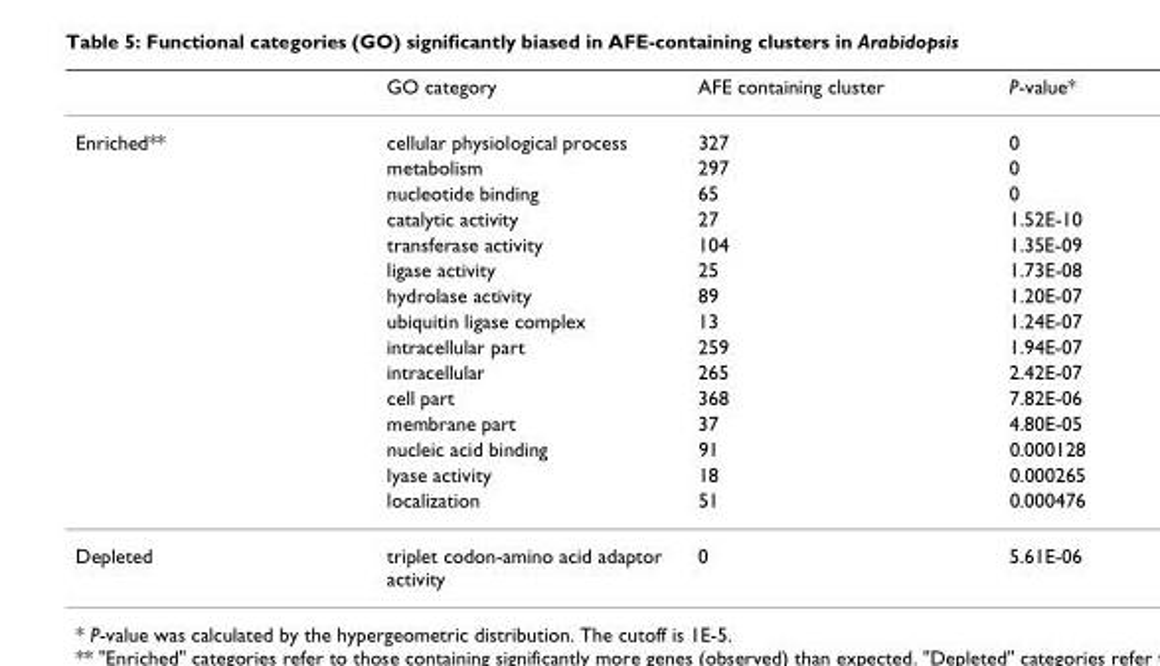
<table><thead><tr><td></td><td>GO category</td><td>AFE containing cluster</td><td>P-value*</td></tr></thead><tbody><tr><td rowspan="15">Enriched**</td><td>cellular physiological process</td><td>327</td><td>0</td></tr><tr><td>metabolism</td><td>297</td><td>0</td></tr><tr><td>nucleotide binding</td><td>65</td><td>0</td></tr><tr><td>catalytic activity</td><td>27</td><td>1.52E-10</td></tr><tr><td>transferase activity</td><td>104</td><td>1.35E-09</td></tr><tr><td>ligase activity</td><td>25</td><td>1.73E-08</td></tr><tr><td>hydrolase activity</td><td>89</td><td>1.20E-07</td></tr><tr><td>ubiquitin ligase complex</td><td>13</td><td>1.24E-07</td></tr><tr><td>intracellular part</td><td>259</td><td>1.94E-07</td></tr><tr><td>intracellular</td><td>265</td><td>2.42E-07</td></tr><tr><td>cell part</td><td>368</td><td>7.82E-06</td></tr><tr><td>membrane part</td><td>37</td><td>4.80E-05</td></tr><tr><td>nucleic acid binding</td><td>91</td><td>0.000128</td></tr><tr><td>lyase activity</td><td>18</td><td>0.000265</td></tr><tr><td>localization</td><td>51</td><td>0.000476</td></tr><tr><td>Depleted</td><td>triplet codon-amino acid adaptor activity</td><td>0</td><td>5.61E-06</td></tr></tbody></table>